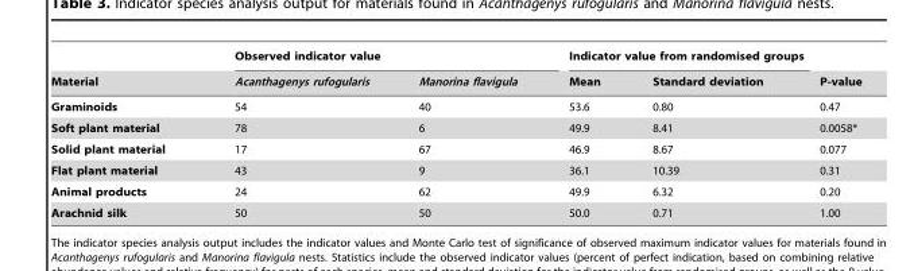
<table><thead><tr><td rowspan="2">Material</td><td colspan="2">Observed indicator value</td><td colspan="2">Indicator value from randomised groups</td><td rowspan="2">P-value</td></tr><tr><td>Acanthagenys rufogularis</td><td>Manorina flavigula</td><td>Mean</td><td>Standard deviation</td></tr></thead><tbody><tr><td>Graminoids</td><td>54</td><td>40</td><td>53.6</td><td>0.80</td><td>0.47</td></tr><tr><td>Soft plant material</td><td>78</td><td>6</td><td>49.9</td><td>8.41</td><td>0.0058*</td></tr><tr><td>Solid plant material</td><td>17</td><td>67</td><td>46.9</td><td>8.67</td><td>0.077</td></tr><tr><td>Flat plant material</td><td>43</td><td>9</td><td>36.1</td><td>10.39</td><td>0.31</td></tr><tr><td>Animal products</td><td>24</td><td>62</td><td>49.9</td><td>6.32</td><td>0.20</td></tr><tr><td>Arachnid silk</td><td>50</td><td>50</td><td>50.0</td><td>0.71</td><td>1.00</td></tr></tbody></table>